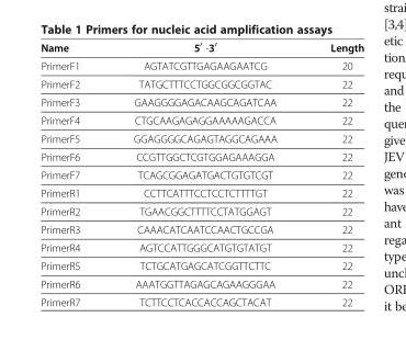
<table><thead><tr><td>Name</td><td>5<sup>′</sup> -3<sup>′</sup></td><td>Length</td></tr></thead><tbody><tr><td>PrimerF1</td><td>AGTATCGTTGAGAAGAATCG</td><td>20</td></tr><tr><td>PrimerF2</td><td>TATGCTTTCCTGGCGGCGGTAC</td><td>22</td></tr><tr><td>PrimerF3</td><td>GAAGGGGAGACAAGCAGATCAA</td><td>22</td></tr><tr><td>PrimerF4</td><td>CTGCAAGAGAGGAAAAAGACCA</td><td>22</td></tr><tr><td>PrimerF5</td><td>GGAGGGGCAGAGTAGGCAGAAA</td><td>22</td></tr><tr><td>PrimerF6</td><td>CCGTTGGCTCGTGGAGAAAGGA</td><td>22</td></tr><tr><td>PrimerF7</td><td>TCAGCGGAGATGACTGTGTCGT</td><td>22</td></tr><tr><td>PrimerR1</td><td>CCTTCATTTCCTCCTCTTTTGT</td><td>22</td></tr><tr><td>PrimerR2</td><td>TGAACGGCTTTTCCTATGGAGT</td><td>22</td></tr><tr><td>PrimerR3</td><td>CAAACATCAATCCAACTGCCGA</td><td>22</td></tr><tr><td>PrimerR4</td><td>AGTCCATTGGGCATGTGTATGT</td><td>22</td></tr><tr><td>PrimerR5</td><td>TCTGCATGAGCATCGGTTCTTC</td><td>22</td></tr><tr><td>PrimerR6</td><td>AAATGGTTAGAGCAGAAGGGAA</td><td>22</td></tr><tr><td>PrimerR7</td><td>TCTTCCTCACCACCAGCTACAT</td><td>22</td></tr></tbody></table>